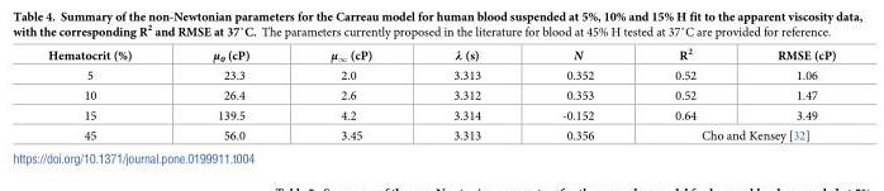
<table><thead><tr><td>Hematocrit (%)</td><td>μ<sub>0</sub> (cP)</td><td>μ<sub>∞</sub> (cP)</td><td>λ (s)</td><td>N</td><td>R<sup>2</sup></td><td>RMSE (cP)</td></tr></thead><tbody><tr><td>5</td><td>23.3</td><td>2.0</td><td>3.313</td><td>0.352</td><td>0.52</td><td>1.06</td></tr><tr><td>10</td><td>26.4</td><td>2.6</td><td>3.312</td><td>0.353</td><td>0.52</td><td>1.47</td></tr><tr><td>15</td><td>139.5</td><td>4.2</td><td>3.314</td><td>-0.152</td><td>0.64</td><td>3.49</td></tr><tr><td>45</td><td>56.0</td><td>3.45</td><td>3.313</td><td>0.356</td><td colspan="2">Cho and Kensey [32]</td></tr></tbody></table>